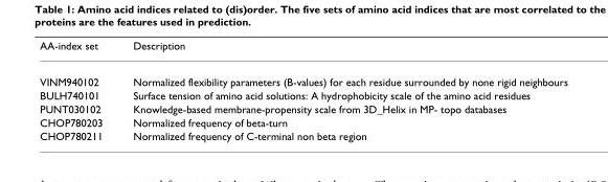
<table><thead><tr><td>AA-index set</td><td>Description</td></tr></thead><tbody><tr><td>VINM940102</td><td>Normalized flexibility parameters (B-values) for each residue surrounded by none rigid neighbours</td></tr><tr><td>BULH740101</td><td>Surface tension of amino acid solutions: A hydrophobicity scale of the amino acid residues</td></tr><tr><td>PUNT030102</td><td>Knowledge-based membrane-propensity scale from 3D_Helix in MP- topo databases</td></tr><tr><td>CHOP780203</td><td>Normalized frequency of beta-turn</td></tr><tr><td>CHOP780211</td><td>Normalized frequency of C-terminal non beta region</td></tr></tbody></table>